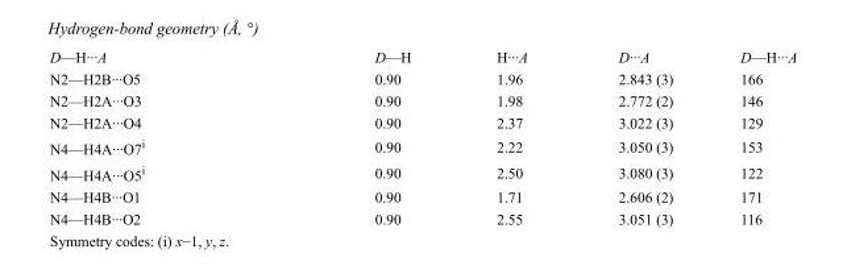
<table><tbody><tr><td>D—H···A</td><td>D—H</td><td>H···A</td><td>D···A</td><td>D—H···A</td></tr><tr><td>N2—H2B···O5</td><td>0.90</td><td>1.96</td><td>2.843 (3)</td><td>166</td></tr><tr><td>N2—H2A···O3</td><td>0.90</td><td>1.98</td><td>2.772 (2)</td><td>146</td></tr><tr><td>N2—H2A···O4</td><td>0.90</td><td>2.37</td><td>3.022 (3)</td><td>129</td></tr><tr><td>N4—H4A···O7<sup>i</sup></td><td>0.90</td><td>2.22</td><td>3.050 (3)</td><td>153</td></tr><tr><td>N4—H4A···O5<sup>i</sup></td><td>0.90</td><td>2.50</td><td>3.080 (3)</td><td>122</td></tr><tr><td>N4—H4B···O1</td><td>0.90</td><td>1.71</td><td>2.606 (2)</td><td>171</td></tr><tr><td>N4—H4B···O2</td><td>0.90</td><td>2.55</td><td>3.051 (3)</td><td>116</td></tr></tbody></table>